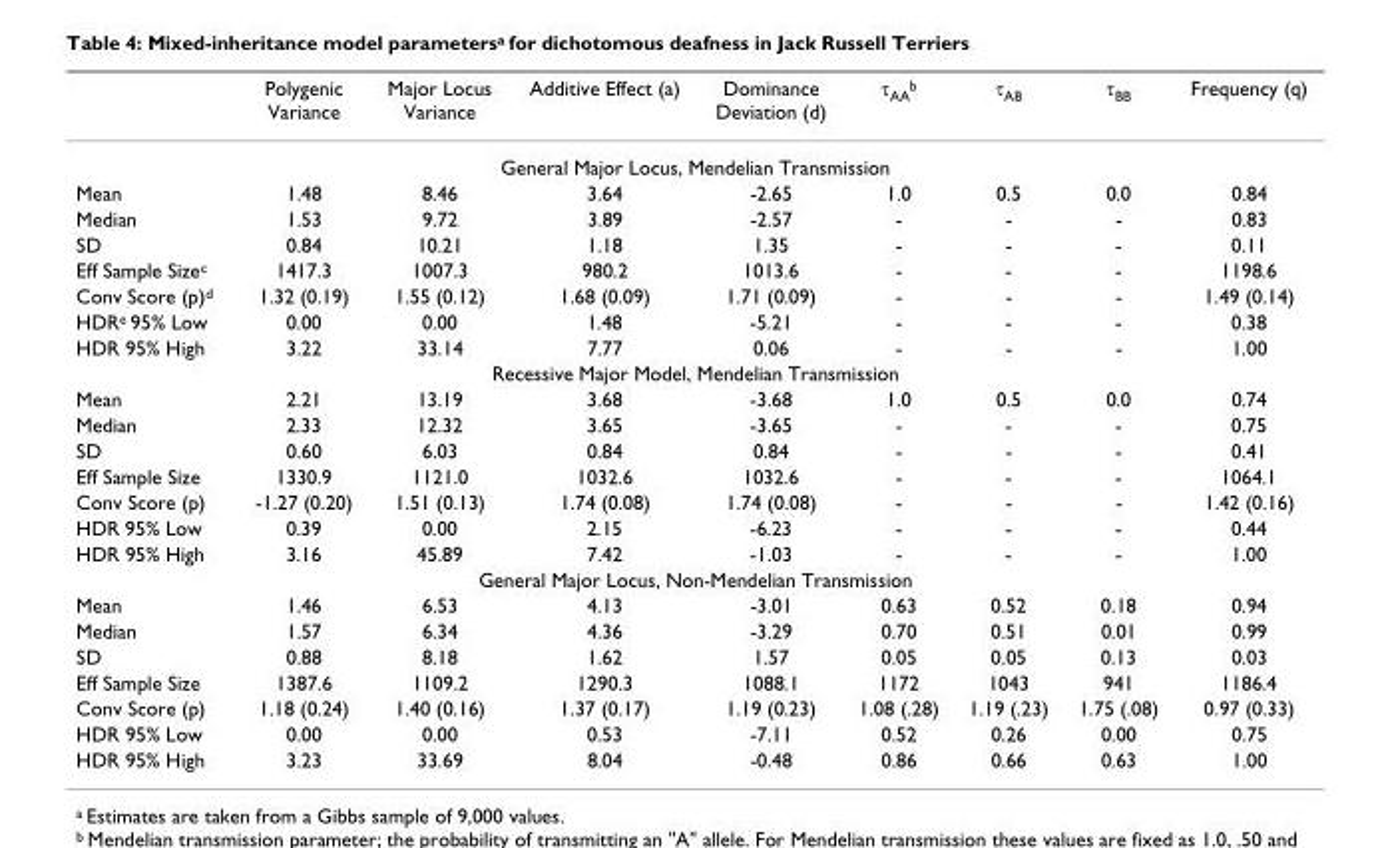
<table><thead><tr><td></td><td>Polygenic Variance</td><td>Major Locus Variance</td><td>Additive Effect (a)</td><td>Dominance Deviation (d)</td><td>τ<sub>AA</sub><sup>b</sup></td><td>τ<sub>AB</sub></td><td>τ<sub>BB</sub></td><td>Frequency (q)</td></tr></thead><tbody><tr><td colspan="9">General Major Locus, Mendelian Transmission</td></tr><tr><td>Mean</td><td>1.48</td><td>8.46</td><td>3.64</td><td>-2.65</td><td>1.0</td><td>0.5</td><td>0.0</td><td>0.84</td></tr><tr><td>Median</td><td>1.53</td><td>9.72</td><td>3.89</td><td>-2.57</td><td>-</td><td>-</td><td>-</td><td>0.83</td></tr><tr><td>SD</td><td>0.84</td><td>10.21</td><td>1.18</td><td>1.35</td><td>-</td><td>-</td><td>-</td><td>0.11</td></tr><tr><td>Eff Sample Size<sup>c</sup></td><td>1417.3</td><td>1007.3</td><td>980.2</td><td>1013.6</td><td>-</td><td>-</td><td>-</td><td>1198.6</td></tr><tr><td>Conv Score (p)<sup>d</sup></td><td>1.32 (0.19)</td><td>1.55 (0.12)</td><td>1.68 (0.09)</td><td>1.71 (0.09)</td><td>-</td><td>-</td><td>-</td><td>1.49 (0.14)</td></tr><tr><td>HDR<sup>e</sup> 95% Low</td><td>0.00</td><td>0.00</td><td>1.48</td><td>-5.21</td><td>-</td><td>-</td><td>-</td><td>0.38</td></tr><tr><td>HDR 95% High</td><td>3.22</td><td>33.14</td><td>7.77</td><td>0.06</td><td>-</td><td>-</td><td>-</td><td>1.00</td></tr><tr><td colspan="9">Recessive Major Model, Mendelian Transmission</td></tr><tr><td>Mean</td><td>2.21</td><td>13.19</td><td>3.68</td><td>-3.68</td><td>1.0</td><td>0.5</td><td>0.0</td><td>0.74</td></tr><tr><td>Median</td><td>2.33</td><td>12.32</td><td>3.65</td><td>-3.65</td><td>-</td><td>-</td><td>-</td><td>0.75</td></tr><tr><td>SD</td><td>0.60</td><td>6.03</td><td>0.84</td><td>0.84</td><td>-</td><td>-</td><td>-</td><td>0.41</td></tr><tr><td>Eff Sample Size</td><td>1330.9</td><td>1121.0</td><td>1032.6</td><td>1032.6</td><td>-</td><td>-</td><td>-</td><td>1064.1</td></tr><tr><td>Conv Score (p)</td><td>-1.27 (0.20)</td><td>1.51 (0.13)</td><td>1.74 (0.08)</td><td>1.74 (0.08)</td><td>-</td><td>-</td><td>-</td><td>1.42 (0.16)</td></tr><tr><td>HDR 95% Low</td><td>0.39</td><td>0.00</td><td>2.15</td><td>-6.23</td><td>-</td><td>-</td><td>-</td><td>0.44</td></tr><tr><td>HDR 95% High</td><td>3.16</td><td>45.89</td><td>7.42</td><td>-1.03</td><td>-</td><td>-</td><td>-</td><td>1.00</td></tr><tr><td colspan="9">General Major Locus, Non-Mendelian Transmission</td></tr><tr><td>Mean</td><td>1.46</td><td>6.53</td><td>4.13</td><td>-3.01</td><td>0.63</td><td>0.52</td><td>0.18</td><td>0.94</td></tr><tr><td>Median</td><td>1.57</td><td>6.34</td><td>4.36</td><td>-3.29</td><td>0.70</td><td>0.51</td><td>0.01</td><td>0.99</td></tr><tr><td>SD</td><td>0.88</td><td>8.18</td><td>1.62</td><td>1.57</td><td>0.05</td><td>0.05</td><td>0.13</td><td>0.03</td></tr><tr><td>Eff Sample Size</td><td>1387.6</td><td>1109.2</td><td>1290.3</td><td>1088.1</td><td>1172</td><td>1043</td><td>941</td><td>1186.4</td></tr><tr><td>Conv Score (p)</td><td>1.18 (0.24)</td><td>1.40 (0.16)</td><td>1.37 (0.17)</td><td>1.19 (0.23)</td><td>1.08 (.28)</td><td>1.19 (.23)</td><td>1.75 (.08)</td><td>0.97 (0.33)</td></tr><tr><td>HDR 95% Low</td><td>0.00</td><td>0.00</td><td>0.53</td><td>-7.11</td><td>0.52</td><td>0.26</td><td>0.00</td><td>0.75</td></tr><tr><td>HDR 95% High</td><td>3.23</td><td>33.69</td><td>8.04</td><td>-0.48</td><td>0.86</td><td>0.66</td><td>0.63</td><td>1.00</td></tr></tbody></table>